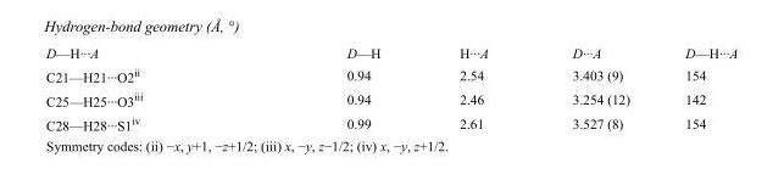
<table><tbody><tr><td>D—H···A</td><td>D—H</td><td>H···A</td><td>D···A</td><td>D—H···A</td></tr><tr><td>C21—H21···O2<sup>ii</sup></td><td>0.94</td><td>2.54</td><td>3.403 (9)</td><td>154</td></tr><tr><td>C25—H25···O3<sup>iii</sup></td><td>0.94</td><td>2.46</td><td>3.254 (12)</td><td>142</td></tr><tr><td>C28—H28···S1<sup>iv</sup></td><td>0.99</td><td>2.61</td><td>3.527 (8)</td><td>154</td></tr></tbody></table>